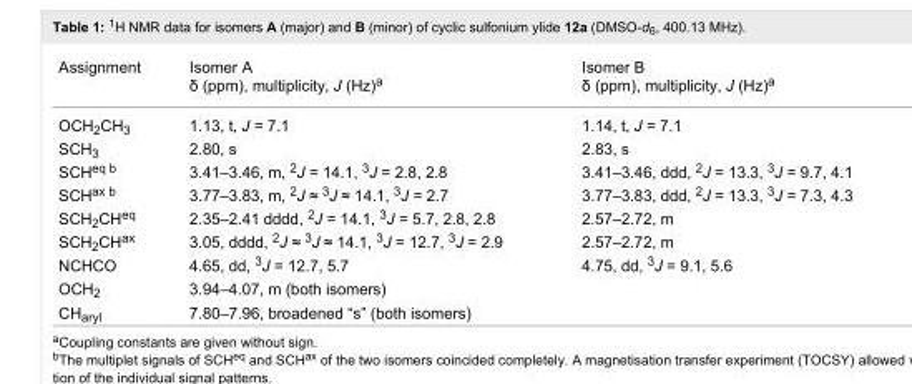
<table><tbody><tr><td>Assignment</td><td>Isomer A δ (ppm), multiplicity, J (Hz)<sup>a</sup></td><td>Isomer B δ (ppm), multiplicity, J (Hz)<sup>a</sup></td></tr><tr><td>OCH<sub>2</sub>CH<sub>3</sub></td><td>1.13, t, J = 7.1</td><td>1.14, t, J = 7.1</td></tr><tr><td>SCH<sub>3</sub></td><td>2.80, s</td><td>2.83, s</td></tr><tr><td>SCH<sup>eq b</sup></td><td>3.41–3.46, m, <sup>2</sup>J = 14.1, <sup>3</sup>J = 2.8, 2.8</td><td>3.41–3.46, ddd, <sup>2</sup>J = 13.3, <sup>3</sup>J = 9.7, 4.1</td></tr><tr><td>SCH<sup>ax b</sup></td><td>3.77–3.83, m, <sup>2</sup>J ≈ <sup>3</sup>J ≈ 14.1, <sup>3</sup>J = 2.7</td><td>3.77–3.83, ddd, <sup>2</sup>J = 13.3, <sup>3</sup>J = 7.3, 4.3</td></tr><tr><td>SCH<sub>2</sub>CH<sup>eq</sup></td><td>2.35–2.41 dddd, <sup>2</sup>J = 14.1, <sup>3</sup>J = 5.7, 2.8, 2.8</td><td>2.57–2.72, m</td></tr><tr><td>SCH<sub>2</sub>CH<sup>ax</sup></td><td>3.05, dddd, <sup>2</sup>J ≈ <sup>3</sup>J ≈ 14.1, <sup>3</sup>J = 12.7, <sup>3</sup>J = 2.9</td><td>2.57–2.72, m</td></tr><tr><td>NCHCO</td><td>4.65, dd, <sup>3</sup>J = 12.7, 5.7</td><td>4.75, dd, <sup>3</sup>J = 9.1, 5.6</td></tr><tr><td>OCH<sub>2</sub></td><td>3.94–4.07, m (both isomers)</td><td></td></tr><tr><td>CH<sub>aryl</sub></td><td>7.80–7.96, broadened “s” (both isomers)</td><td></td></tr></tbody></table>